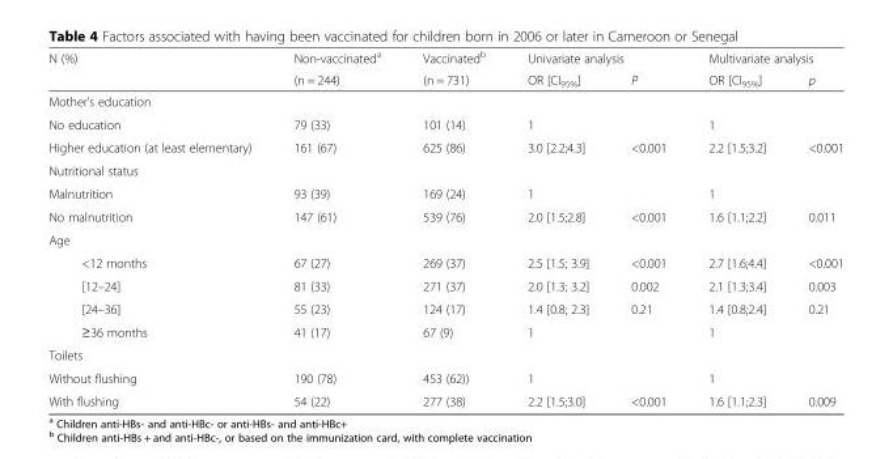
<table><thead><tr><td rowspan="2">N (%)</td><td rowspan="2">Non-vaccinated<sup>a</sup> (n = 244)</td><td rowspan="2">Vaccinated<sup>b</sup> (n = 731)</td><td colspan="2">Univariate analysis</td><td colspan="2">Multivariate analysis</td></tr><tr><td>OR [CI<sub>95%</sub>]</td><td>P</td><td>OR [CI<sub>95%</sub>]</td><td>p</td></tr></thead><tbody><tr><td colspan="7">Mother’s education</td></tr><tr><td>No education</td><td>79 (33)</td><td>101 (14)</td><td>1</td><td></td><td>1</td><td></td></tr><tr><td>Higher education (at least elementary)</td><td>161 (67)</td><td>625 (86)</td><td>3.0 [2.2;4.3]</td><td>&lt;0.001</td><td>2.2 [1.5;3.2]</td><td>&lt;0.001</td></tr><tr><td colspan="7">Nutritional status</td></tr><tr><td>Malnutrition</td><td>93 (39)</td><td>169 (24)</td><td>1</td><td></td><td>1</td><td></td></tr><tr><td>No malnutrition</td><td>147 (61)</td><td>539 (76)</td><td>2.0 [1.5;2.8]</td><td>&lt;0.001</td><td>1.6 [1.1;2.2]</td><td>0.011</td></tr><tr><td colspan="7">Age</td></tr><tr><td>&lt;12 months</td><td>67 (27)</td><td>269 (37)</td><td>2.5 [1.5; 3.9]</td><td>&lt;0.001</td><td>2.7 [1.6;4.4]</td><td>&lt;0.001</td></tr><tr><td>[12–24]</td><td>81 (33)</td><td>271 (37)</td><td>2.0 [1.3; 3.2]</td><td>0.002</td><td>2.1 [1.3;3.4]</td><td>0.003</td></tr><tr><td>[24–36]</td><td>55 (23)</td><td>124 (17)</td><td>1.4 [0.8; 2.3]</td><td>0.21</td><td>1.4 [0.8;2.4]</td><td>0.21</td></tr><tr><td>≥36 months</td><td>41 (17)</td><td>67 (9)</td><td>1</td><td></td><td>1</td><td></td></tr><tr><td colspan="7">Toilets</td></tr><tr><td>Without flushing</td><td>190 (78)</td><td>453 (62))</td><td>1</td><td></td><td>1</td><td></td></tr><tr><td>With flushing</td><td>54 (22)</td><td>277 (38)</td><td>2.2 [1.5;3.0]</td><td>&lt;0.001</td><td>1.6 [1.1;2.3]</td><td>0.009</td></tr></tbody></table>